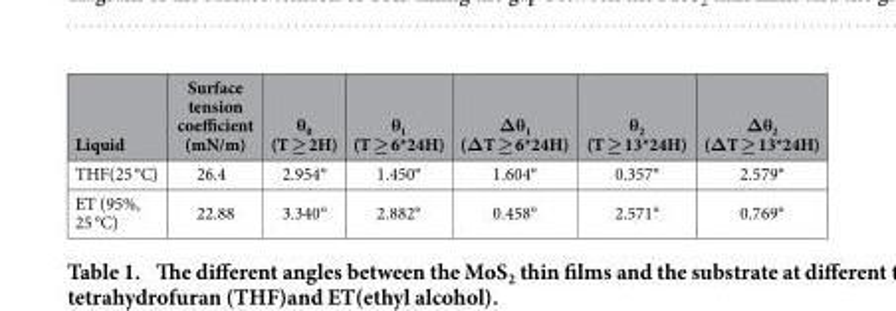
<table><thead><tr><td>Liquid</td><td>Surface tension coefficient (mN/m)</td><td>θ<sub>0</sub> (T ≥ 2H)</td><td>θ<sub>1</sub> (T ≥ 6*24H)</td><td>Δθ<sub>1</sub> (ΔT ≥ 6*24H)</td><td>θ<sub>2</sub> (T ≥ 13*24H)</td><td>Δθ<sub>2</sub> (ΔT ≥ 13*24H)</td></tr></thead><tbody><tr><td>THF(25 °C)</td><td>26.4</td><td>2.954°</td><td>1.450°</td><td>1.604°</td><td>0.357°</td><td>2.579°</td></tr><tr><td>ET (95%, 25 °C)</td><td>22.88</td><td>3.340°</td><td>2.882°</td><td>0.458°</td><td>2.571°</td><td>0.769°</td></tr></tbody></table>